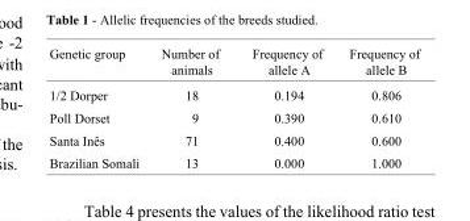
<table><thead><tr><td>Genetic group</td><td>Number of animals</td><td>Frequency of allele A</td><td>Frequency of allele B</td></tr></thead><tbody><tr><td>1/2 Dorper</td><td>18</td><td>0.194</td><td>0.806</td></tr><tr><td>Poll Dorset</td><td>9</td><td>0.390</td><td>0.610</td></tr><tr><td>Santa Inês</td><td>71</td><td>0.400</td><td>0.600</td></tr><tr><td>Brazilian Somali</td><td>13</td><td>0.000</td><td>1.000</td></tr></tbody></table>